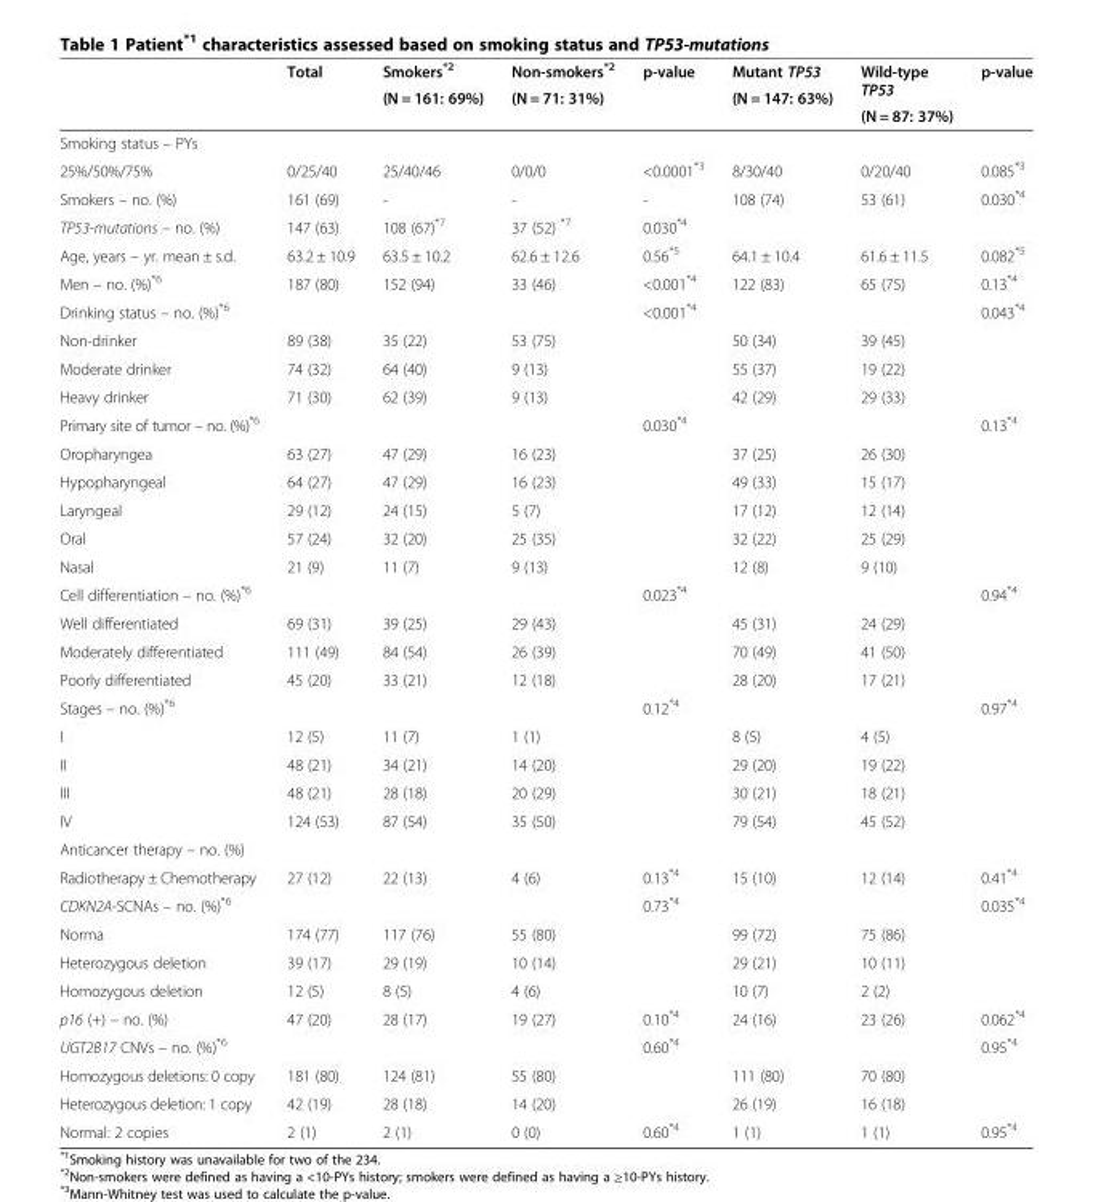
<table><thead><tr><td rowspan="3"></td><td rowspan="3">Total</td><td rowspan="3">Smokers<sup>*2</sup> (N = 161: 69%)</td><td rowspan="3">Non-smokers<sup>*2</sup> (N = 71: 31%)</td><td rowspan="3">p-value</td><td rowspan="3">Mutant TP53 (N = 147: 63%)</td><td rowspan="3">Wild-type TP53 (N = 87: 37%)</td><td rowspan="3">p-value</td></tr><tr></tr><tr></tr></thead><tbody><tr><td colspan="8">Smoking status – PYs</td></tr><tr><td>25%/50%/75%</td><td>0/25/40</td><td>25/40/46</td><td>0/0/0</td><td>&lt;0.0001<sup>*3</sup></td><td>8/30/40</td><td>0/20/40</td><td>0.085<sup>*3</sup></td></tr><tr><td>Smokers – no. (%)</td><td>161 (69)</td><td>-</td><td>-</td><td>-</td><td>108 (74)</td><td>53 (61)</td><td>0.030<sup>*4</sup></td></tr><tr><td>TP53-mutations – no. (%)</td><td>147 (63)</td><td>108 (67)<sup>*7</sup></td><td>37 (52) <sup>*7</sup></td><td>0.030<sup>*4</sup></td><td></td><td></td><td></td></tr><tr><td>Age, years – yr. mean ± s.d.</td><td>63.2 ± 10.9</td><td>63.5 ± 10.2</td><td>62.6 ± 12.6</td><td>0.56<sup>*5</sup></td><td>64.1 ± 10.4</td><td>61.6 ± 11.5</td><td>0.082<sup>*5</sup></td></tr><tr><td>Men – no. (%)<sup>*6</sup></td><td>187 (80)</td><td>152 (94)</td><td>33 (46)</td><td>&lt;0.001<sup>*4</sup></td><td>122 (83)</td><td>65 (75)</td><td>0.13<sup>*4</sup></td></tr><tr><td>Drinking status – no. (%)<sup>*6</sup></td><td></td><td></td><td></td><td>&lt;0.001<sup>*4</sup></td><td></td><td></td><td>0.043<sup>*4</sup></td></tr><tr><td>Non-drinker</td><td>89 (38)</td><td>35 (22)</td><td>53 (75)</td><td></td><td>50 (34)</td><td>39 (45)</td><td></td></tr><tr><td>Moderate drinker</td><td>74 (32)</td><td>64 (40)</td><td>9 (13)</td><td></td><td>55 (37)</td><td>19 (22)</td><td></td></tr><tr><td>Heavy drinker</td><td>71 (30)</td><td>62 (39)</td><td>9 (13)</td><td></td><td>42 (29)</td><td>29 (33)</td><td></td></tr><tr><td>Primary site of tumor – no. (%)<sup>*6</sup></td><td></td><td></td><td></td><td>0.030<sup>*4</sup></td><td></td><td></td><td>0.13<sup>*4</sup></td></tr><tr><td>Oropharyngea</td><td>63 (27)</td><td>47 (29)</td><td>16 (23)</td><td></td><td>37 (25)</td><td>26 (30)</td><td></td></tr><tr><td>Hypopharyngeal</td><td>64 (27)</td><td>47 (29)</td><td>16 (23)</td><td></td><td>49 (33)</td><td>15 (17)</td><td></td></tr><tr><td>Laryngeal</td><td>29 (12)</td><td>24 (15)</td><td>5 (7)</td><td></td><td>17 (12)</td><td>12 (14)</td><td></td></tr><tr><td>Oral</td><td>57 (24)</td><td>32 (20)</td><td>25 (35)</td><td></td><td>32 (22)</td><td>25 (29)</td><td></td></tr><tr><td>Nasal</td><td>21 (9)</td><td>11 (7)</td><td>9 (13)</td><td></td><td>12 (8)</td><td>9 (10)</td><td></td></tr><tr><td>Cell differentiation – no. (%)<sup>*6</sup></td><td></td><td></td><td></td><td>0.023<sup>*4</sup></td><td></td><td></td><td>0.94<sup>*4</sup></td></tr><tr><td>Well differentiated</td><td>69 (31)</td><td>39 (25)</td><td>29 (43)</td><td></td><td>45 (31)</td><td>24 (29)</td><td></td></tr><tr><td>Moderately differentiated</td><td>111 (49)</td><td>84 (54)</td><td>26 (39)</td><td></td><td>70 (49)</td><td>41 (50)</td><td></td></tr><tr><td>Poorly differentiated</td><td>45 (20)</td><td>33 (21)</td><td>12 (18)</td><td></td><td>28 (20)</td><td>17 (21)</td><td></td></tr><tr><td>Stages – no. (%)<sup>*6</sup></td><td></td><td></td><td></td><td>0.12<sup>*4</sup></td><td></td><td></td><td>0.97<sup>*4</sup></td></tr><tr><td>I</td><td>12 (5)</td><td>11 (7)</td><td>1 (1)</td><td></td><td>8 (5)</td><td>4 (5)</td><td></td></tr><tr><td>II</td><td>48 (21)</td><td>34 (21)</td><td>14 (20)</td><td></td><td>29 (20)</td><td>19 (22)</td><td></td></tr><tr><td>III</td><td>48 (21)</td><td>28 (18)</td><td>20 (29)</td><td></td><td>30 (21)</td><td>18 (21)</td><td></td></tr><tr><td>IV</td><td>124 (53)</td><td>87 (54)</td><td>35 (50)</td><td></td><td>79 (54)</td><td>45 (52)</td><td></td></tr><tr><td colspan="8">Anticancer therapy – no. (%)</td></tr><tr><td>Radiotherapy ± Chemotherapy</td><td>27 (12)</td><td>22 (13)</td><td>4 (6)</td><td>0.13<sup>*4</sup></td><td>15 (10)</td><td>12 (14)</td><td>0.41<sup>*4</sup></td></tr><tr><td>CDKN2A-SCNAs – no. (%)<sup>*6</sup></td><td></td><td></td><td></td><td>0.73<sup>*4</sup></td><td></td><td></td><td>0.035<sup>*4</sup></td></tr><tr><td>Norma</td><td>174 (77)</td><td>117 (76)</td><td>55 (80)</td><td></td><td>99 (72)</td><td>75 (86)</td><td rowspan="2"></td></tr><tr><td>Heterozygous deletion</td><td>39 (17)</td><td>29 (19)</td><td>10 (14)</td><td></td><td>29 (21)</td><td>10 (11)</td></tr><tr><td>Homozygous deletion</td><td>12 (5)</td><td>8 (5)</td><td>4 (6)</td><td></td><td>10 (7)</td><td>2 (2)</td><td></td></tr><tr><td>p16 (+) – no. (%)</td><td>47 (20)</td><td>28 (17)</td><td>19 (27)</td><td>0.10<sup>*4</sup></td><td>24 (16)</td><td>23 (26)</td><td>0.062<sup>*4</sup></td></tr><tr><td>UGT2B17 CNVs – no. (%)<sup>*6</sup></td><td></td><td></td><td></td><td>0.60<sup>*4</sup></td><td></td><td></td><td>0.95<sup>*4</sup></td></tr><tr><td>Homozygous deletions: 0 copy</td><td>181 (80)</td><td>124 (81)</td><td>55 (80)</td><td></td><td>111 (80)</td><td>70 (80)</td><td></td></tr><tr><td>Heterozygous deletion: 1 copy</td><td>42 (19)</td><td>28 (18)</td><td>14 (20)</td><td></td><td>26 (19)</td><td>16 (18)</td><td></td></tr><tr><td>Normal: 2 copies</td><td>2 (1)</td><td>2 (1)</td><td>0 (0)</td><td>0.60<sup>*4</sup></td><td>1 (1)</td><td>1 (1)</td><td>0.95<sup>*4</sup></td></tr></tbody></table>